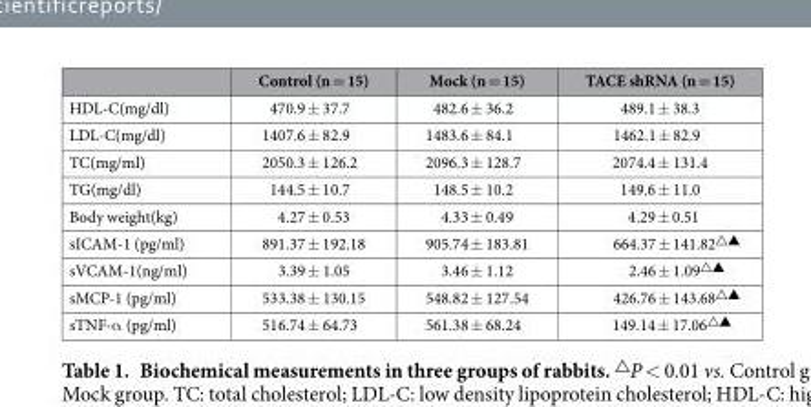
<table><thead><tr><td></td><td>Control (n = 15)</td><td>Mock (n = 15)</td><td>TACE shRNA (n = 15)</td></tr></thead><tbody><tr><td>HDL-C(mg/dl)</td><td>470.9 ± 37.7</td><td>482.6 ± 36.2</td><td>489.1 ± 38.3</td></tr><tr><td>LDL-C(mg/dl)</td><td>1407.6 ± 82.9</td><td>1483.6 ± 84.1</td><td>1462.1 ± 82.9</td></tr><tr><td>TC(mg/ml)</td><td>2050.3 ± 126.2</td><td>2096.3 ± 128.7</td><td>2074.4 ± 131.4</td></tr><tr><td>TG(mg/dl)</td><td>144.5 ± 10.7</td><td>148.5 ± 10.2</td><td>149.6 ± 11.0</td></tr><tr><td>Body weight(kg)</td><td>4.27 ± 0.53</td><td>4.33 ± 0.49</td><td>4.29 ± 0.51</td></tr><tr><td>sICAM-1 (pg/ml)</td><td>891.37 ± 192.18</td><td>905.74 ± 183.81</td><td>664.37 ± 141.82△▲</td></tr><tr><td>sVCAM-1(ng/ml)</td><td>3.39 ± 1.05</td><td>3.46 ± 1.12</td><td>2.46 ± 1.09△▲</td></tr><tr><td>sMCP-1 (pg/ml)</td><td>533.38 ± 130.15</td><td>548.82 ± 127.54</td><td>426.76 ± 143.68△▲</td></tr><tr><td>sTNF-α (pg/ml)</td><td>516.74 ± 64.73</td><td>561.38 ± 68.24</td><td>149.14 ± 17.06△▲</td></tr></tbody></table>